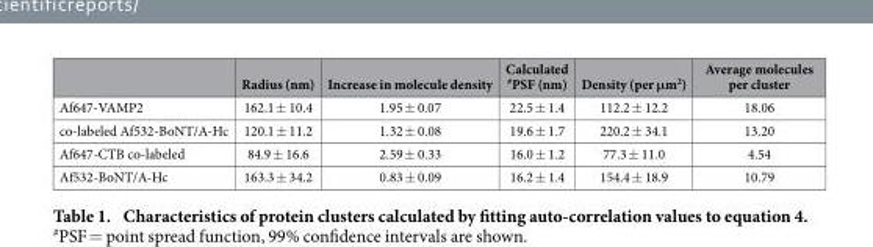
<table><thead><tr><td></td><td>Radius (nm)</td><td>Increase in molecule density</td><td>Calculated #PSF (nm)</td><td>Density (per μm<sup>2</sup>)</td><td>Average molecules per cluster</td></tr></thead><tbody><tr><td>Af647-VAMP2</td><td>162.1 ± 10.4</td><td>1.95 ± 0.07</td><td>22.5 ± 1.4</td><td>112.2 ± 12.2</td><td>18.06</td></tr><tr><td>co-labeled Af532-BoNT/A-Hc</td><td>120.1 ± 11.2</td><td>1.32 ± 0.08</td><td>19.6 ± 1.7</td><td>220.2 ± 34.1</td><td>13.20</td></tr><tr><td>Af647-CTB co-labeled</td><td>84.9 ± 16.6</td><td>2.59 ± 0.33</td><td>16.0 ± 1.2</td><td>77.3 ± 11.0</td><td>4.54</td></tr><tr><td>Af532-BoNT/A-Hc</td><td>163.3 ± 34.2</td><td>0.83 ± 0.09</td><td>16.2 ± 1.4</td><td>154.4 ± 18.9</td><td>10.79</td></tr></tbody></table>